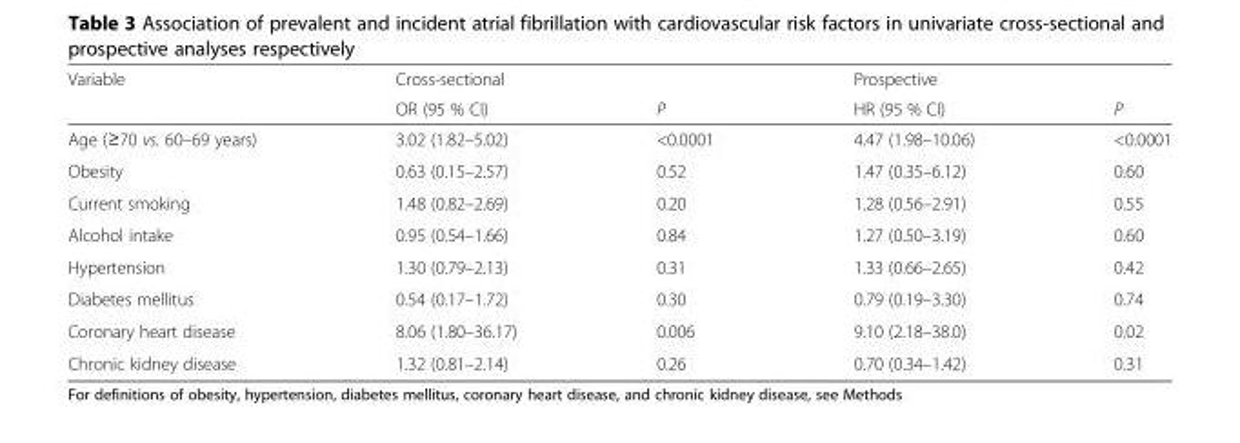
<table><thead><tr><td rowspan="2">Variable</td><td colspan="2">Cross-sectional</td><td colspan="2">Prospective</td></tr><tr><td>OR (95 % CI)</td><td>P</td><td>HR (95 % CI)</td><td>P</td></tr></thead><tbody><tr><td>Age (≥70 vs. 60–69 years)</td><td>3.02 (1.82–5.02)</td><td>&lt;0.0001</td><td>4.47 (1.98–10.06)</td><td>&lt;0.0001</td></tr><tr><td>Obesity</td><td>0.63 (0.15–2.57)</td><td>0.52</td><td>1.47 (0.35–6.12)</td><td>0.60</td></tr><tr><td>Current smoking</td><td>1.48 (0.82–2.69)</td><td>0.20</td><td>1.28 (0.56–2.91)</td><td>0.55</td></tr><tr><td>Alcohol intake</td><td>0.95 (0.54–1.66)</td><td>0.84</td><td>1.27 (0.50–3.19)</td><td>0.60</td></tr><tr><td>Hypertension</td><td>1.30 (0.79–2.13)</td><td>0.31</td><td>1.33 (0.66–2.65)</td><td>0.42</td></tr><tr><td>Diabetes mellitus</td><td>0.54 (0.17–1.72)</td><td>0.30</td><td>0.79 (0.19–3.30)</td><td>0.74</td></tr><tr><td>Coronary heart disease</td><td>8.06 (1.80–36.17)</td><td>0.006</td><td>9.10 (2.18–38.0)</td><td>0.02</td></tr><tr><td>Chronic kidney disease</td><td>1.32 (0.81–2.14)</td><td>0.26</td><td>0.70 (0.34–1.42)</td><td>0.31</td></tr></tbody></table>